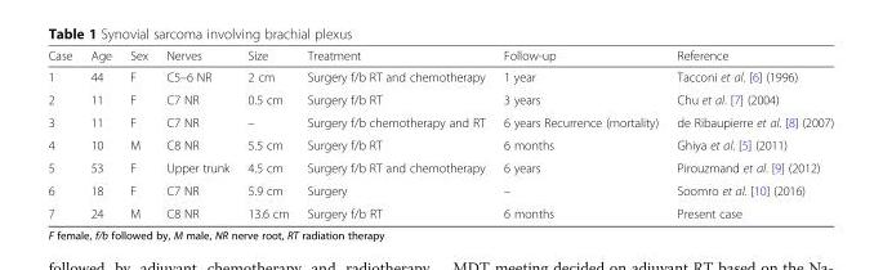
<table><thead><tr><td>Case</td><td>Age</td><td>Sex</td><td>Nerves</td><td>Size</td><td>Treatment</td><td>Follow-up</td><td>Reference</td></tr></thead><tbody><tr><td>1</td><td>44</td><td>F</td><td>C5–6 NR</td><td>2 cm</td><td>Surgery f/b RT and chemotherapy</td><td>1 year</td><td>Tacconi et al. [6] (1996)</td></tr><tr><td>2</td><td>11</td><td>F</td><td>C7 NR</td><td>0.5 cm</td><td>Surgery f/b RT</td><td>3 years</td><td>Chu et al. [7] (2004)</td></tr><tr><td>3</td><td>11</td><td>F</td><td>C7 NR</td><td>–</td><td>Surgery f/b chemotherapy and RT</td><td>6 years Recurrence (mortality)</td><td>de Ribaupierre et al. [8] (2007)</td></tr><tr><td>4</td><td>10</td><td>M</td><td>C8 NR</td><td>5.5 cm</td><td>Surgery f/b RT</td><td>6 months</td><td>Ghiya et al. [5] (2011)</td></tr><tr><td>5</td><td>53</td><td>F</td><td>Upper trunk</td><td>4.5 cm</td><td>Surgery f/b RT and chemotherapy</td><td>6 years</td><td>Pirouzmand et al. [9] (2012)</td></tr><tr><td>6</td><td>18</td><td>F</td><td>C7 NR</td><td>5.9 cm</td><td>Surgery</td><td>–</td><td>Soomro et al. [10] (2016)</td></tr><tr><td>7</td><td>24</td><td>M</td><td>C8 NR</td><td>13.6 cm</td><td>Surgery f/b RT</td><td>6 months</td><td>Present case</td></tr></tbody></table>